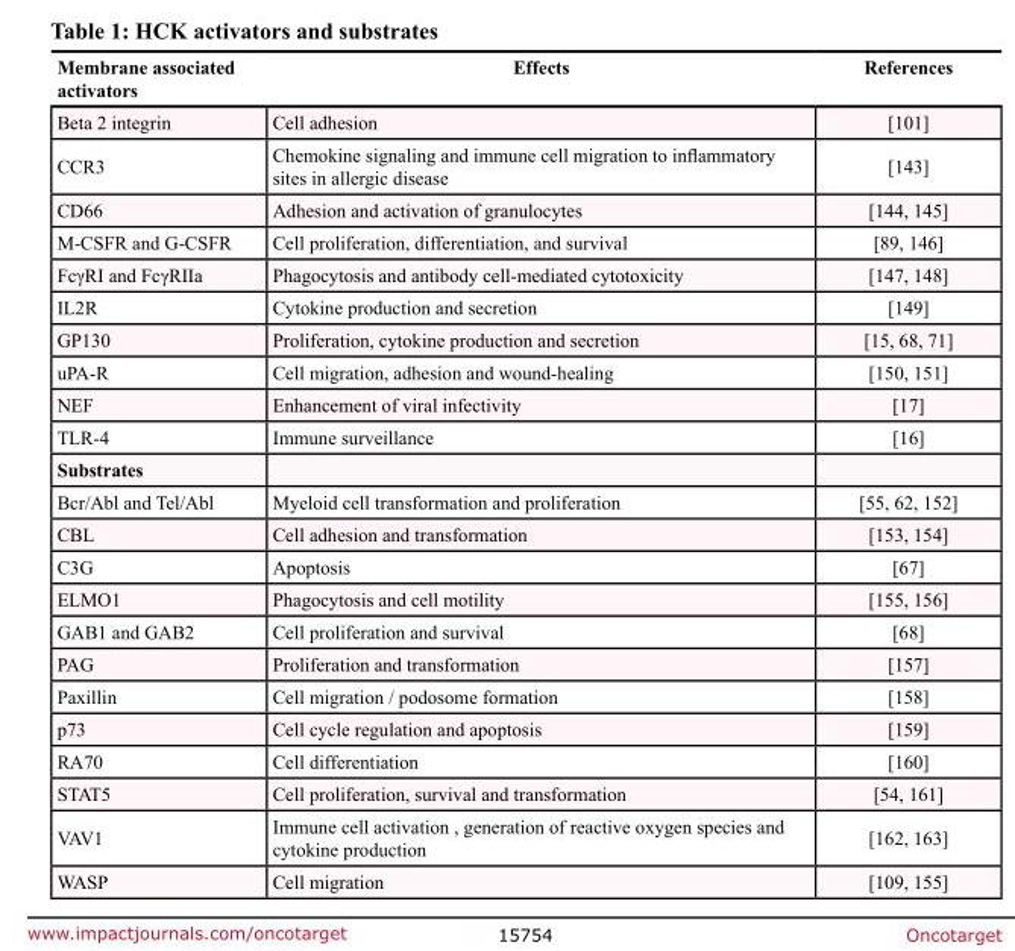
<table><thead><tr><td>Membrane associated activators</td><td>Effects</td><td>References</td></tr></thead><tbody><tr><td>Beta 2 integrin</td><td>Cell adhesion</td><td>[101]</td></tr><tr><td>CCR3</td><td>Chemokine signaling and immune cell migration to inflammatory sites in allergic disease</td><td>[143]</td></tr><tr><td>CD66</td><td>Adhesion and activation of granulocytes</td><td>[144, 145]</td></tr><tr><td>M-CSFR and G-CSFR</td><td>Cell proliferation, differentiation, and survival</td><td>[89, 146]</td></tr><tr><td>FcγRI and FcγRIIa</td><td>Phagocytosis and antibody cell-mediated cytotoxicity</td><td>[147, 148]</td></tr><tr><td>IL2R</td><td>Cytokine production and secretion</td><td>[149]</td></tr><tr><td>GP130</td><td>Proliferation, cytokine production and secretion</td><td>[15, 68, 71]</td></tr><tr><td>uPA-R</td><td>Cell migration, adhesion and wound-healing</td><td>[150, 151]</td></tr><tr><td>NEF</td><td>Enhancement of viral infectivity</td><td>[17]</td></tr><tr><td>TLR-4</td><td>Immune surveillance</td><td>[16]</td></tr><tr><td colspan="3">Substrates</td></tr><tr><td>Bcr/Abl and Tel/Abl</td><td>Myeloid cell transformation and proliferation</td><td>[55, 62, 152]</td></tr><tr><td>CBL</td><td>Cell adhesion and transformation</td><td>[153, 154]</td></tr><tr><td>C3G</td><td>Apoptosis</td><td>[67]</td></tr><tr><td>ELMO1</td><td>Phagocytosis and cell motility</td><td>[155, 156]</td></tr><tr><td>GAB1 and GAB2</td><td>Cell proliferation and survival</td><td>[68]</td></tr><tr><td>PAG</td><td>Proliferation and transformation</td><td>[157]</td></tr><tr><td>Paxillin</td><td>Cell migration / podosome formation</td><td>[158]</td></tr><tr><td>p73</td><td>Cell cycle regulation and apoptosis</td><td>[159]</td></tr><tr><td>RA70</td><td>Cell differentiation</td><td>[160]</td></tr><tr><td>STAT5</td><td>Cell proliferation, survival and transformation</td><td>[54, 161]</td></tr><tr><td>VAV1</td><td>Immune cell activation , generation of reactive oxygen species and cytokine production</td><td>[162, 163]</td></tr><tr><td>WASP</td><td>Cell migration</td><td>[109, 155]</td></tr></tbody></table>